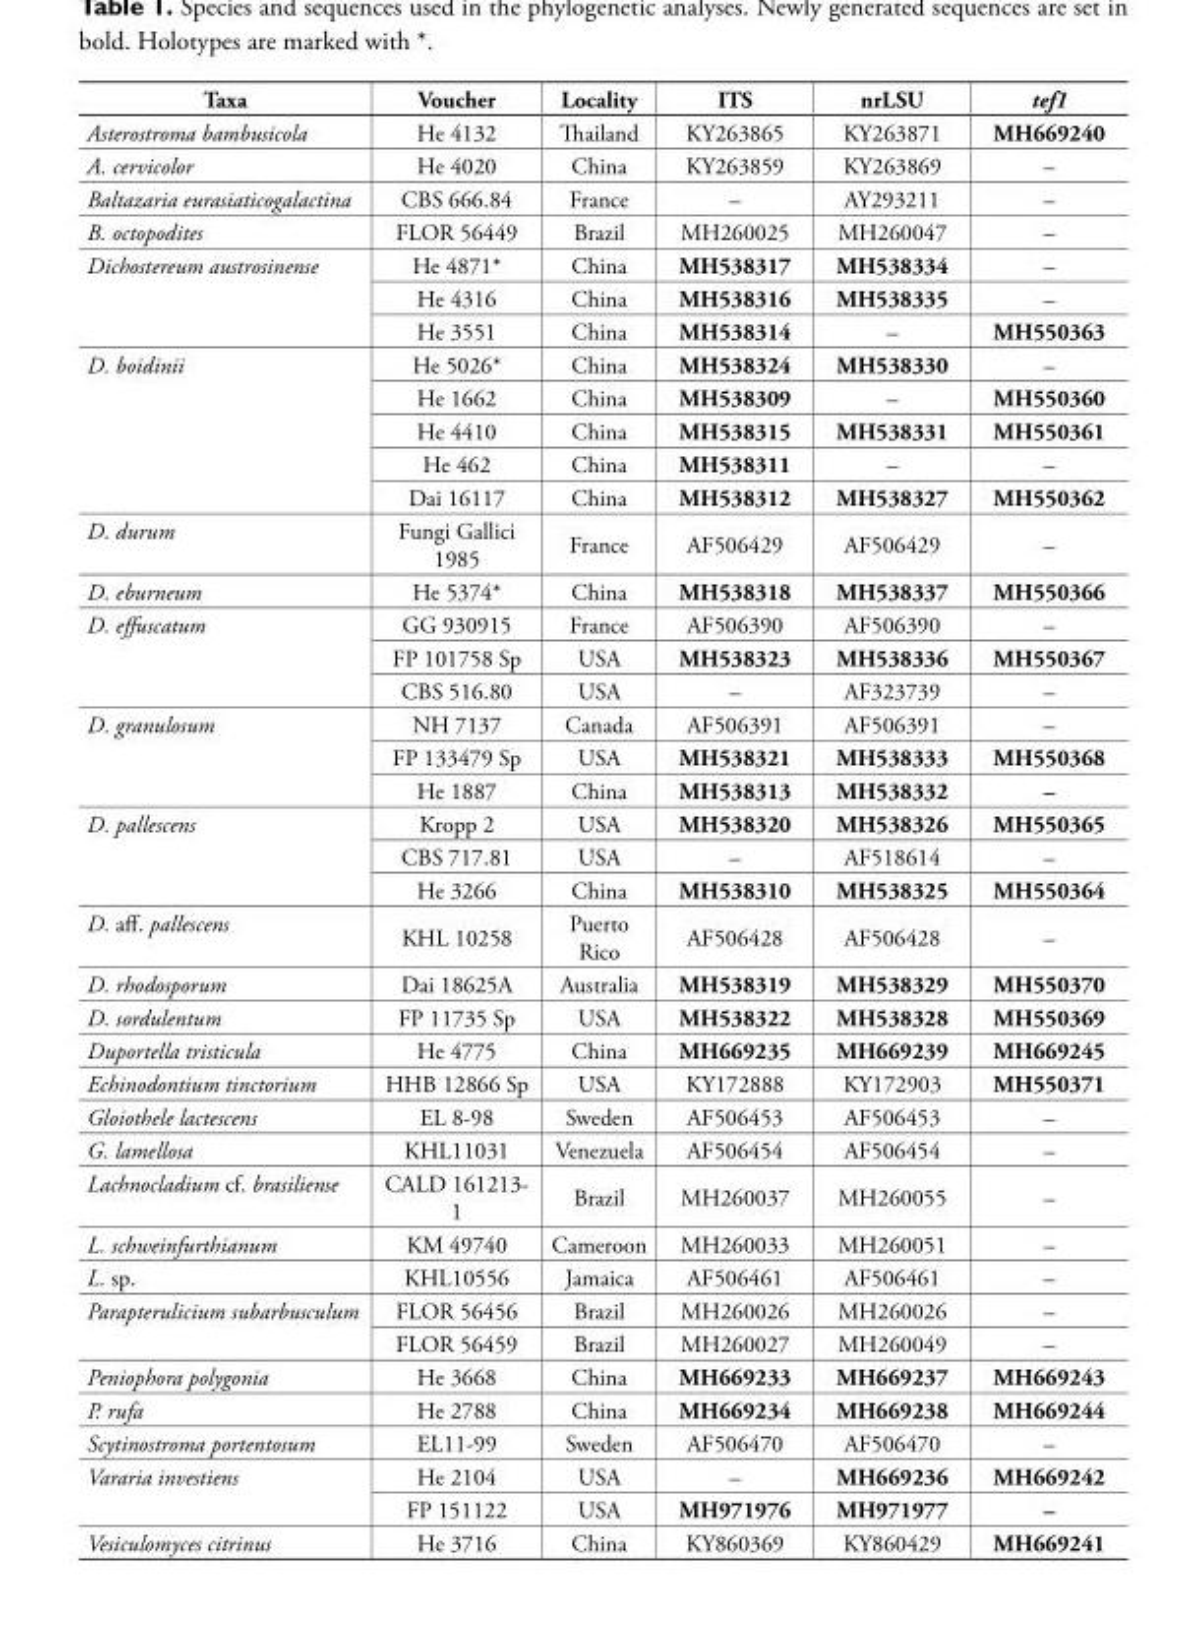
<table><thead><tr><td>Taxa</td><td>Voucher</td><td>Locality</td><td>ITS</td><td>nrLSU</td><td>tef1</td></tr></thead><tbody><tr><td>Asterostroma bambusicola</td><td>He 4132</td><td>Thailand</td><td>KY263865</td><td>KY263871</td><td>MH669240</td></tr><tr><td>A. cervicolor</td><td>He 4020</td><td>China</td><td>KY263859</td><td>KY263869</td><td>–</td></tr><tr><td>Baltazaria eurasiaticogalactina</td><td>CBS 666.84</td><td>France</td><td>–</td><td>AY293211</td><td>–</td></tr><tr><td>B. octopodites</td><td>FLOR 56449</td><td>Brazil</td><td>MH260025</td><td>MH260047</td><td>–</td></tr><tr><td rowspan="3">Dichostereum austrosinense</td><td>He 4871*</td><td>China</td><td>MH538317</td><td>MH538334</td><td>–</td></tr><tr><td>He 4316</td><td>China</td><td>MH538316</td><td>MH538335</td><td>–</td></tr><tr><td>He 3551</td><td>China</td><td>MH538314</td><td>–</td><td>MH550363</td></tr><tr><td rowspan="5">D. boidinii</td><td>He 5026*</td><td>China</td><td>MH538324</td><td>MH538330</td><td>–</td></tr><tr><td>He 1662</td><td>China</td><td>MH538309</td><td>–</td><td>MH550360</td></tr><tr><td>He 4410</td><td>China</td><td>MH538315</td><td>MH538331</td><td>MH550361</td></tr><tr><td>He 462</td><td>China</td><td>MH538311</td><td>–</td><td>–</td></tr><tr><td>Dai 16117</td><td>China</td><td>MH538312</td><td>MH538327</td><td>MH550362</td></tr><tr><td>D. durum</td><td>Fungi Gallici 1985</td><td>France</td><td>AF506429</td><td>AF506429</td><td>–</td></tr><tr><td>D. eburneum</td><td>He 5374*</td><td>China</td><td>MH538318</td><td>MH538337</td><td>MH550366</td></tr><tr><td rowspan="3">D. effuscatum</td><td>GG 930915</td><td>France</td><td>AF506390</td><td>AF506390</td><td>–</td></tr><tr><td>FP 101758 Sp</td><td>USA</td><td>MH538323</td><td>MH538336</td><td>MH550367</td></tr><tr><td>CBS 516.80</td><td>USA</td><td>–</td><td>AF323739</td><td>–</td></tr><tr><td rowspan="3">D. granulosum</td><td>NH 7137</td><td>Canada</td><td>AF506391</td><td>AF506391</td><td>–</td></tr><tr><td>FP 133479 Sp</td><td>USA</td><td>MH538321</td><td>MH538333</td><td>MH550368</td></tr><tr><td>He 1887</td><td>China</td><td>MH538313</td><td>MH538332</td><td>–</td></tr><tr><td rowspan="3">D. pallescens</td><td>Kropp 2</td><td>USA</td><td>MH538320</td><td>MH538326</td><td>MH550365</td></tr><tr><td>CBS 717.81</td><td>USA</td><td>–</td><td>AF518614</td><td>–</td></tr><tr><td>He 3266</td><td>China</td><td>MH538310</td><td>MH538325</td><td>MH550364</td></tr><tr><td>D. aff. pallescens</td><td>KHL 10258</td><td>Puerto Rico</td><td>AF506428</td><td>AF506428</td><td>–</td></tr><tr><td>D. rhodosporum</td><td>Dai 18625A</td><td>Australia</td><td>MH538319</td><td>MH538329</td><td>MH550370</td></tr><tr><td>D. sordulentum</td><td>FP 11735 Sp</td><td>USA</td><td>MH538322</td><td>MH538328</td><td>MH550369</td></tr><tr><td>Duportella tristicula</td><td>He 4775</td><td>China</td><td>MH669235</td><td>MH669239</td><td>MH669245</td></tr><tr><td>Echinodontium tinctorium</td><td>HHB 12866 Sp</td><td>USA</td><td>KY172888</td><td>KY172903</td><td>MH550371</td></tr><tr><td>Gloiothele lactescens</td><td>EL 8-98</td><td>Sweden</td><td>AF506453</td><td>AF506453</td><td>–</td></tr><tr><td>G. lamellosa</td><td>KHL11031</td><td>Venezuela</td><td>AF506454</td><td>AF506454</td><td>–</td></tr><tr><td>Lachnocladium cf. brasiliense</td><td>CALD 161213- 1</td><td>Brazil</td><td>MH260037</td><td>MH260055</td><td>–</td></tr><tr><td>L. schweinfurthianum</td><td>KM 49740</td><td>Cameroon</td><td>MH260033</td><td>MH260051</td><td>–</td></tr><tr><td>L. sp.</td><td>KHL10556</td><td>Jamaica</td><td>AF506461</td><td>AF506461</td><td>–</td></tr><tr><td rowspan="2">Parapterulicium subarbusculum</td><td>FLOR 56456</td><td>Brazil</td><td>MH260026</td><td>MH260026</td><td>–</td></tr><tr><td>FLOR 56459</td><td>Brazil</td><td>MH260027</td><td>MH260049</td><td>–</td></tr><tr><td>Peniophora polygonia</td><td>He 3668</td><td>China</td><td>MH669233</td><td>MH669237</td><td>MH669243</td></tr><tr><td>P. rufa</td><td>He 2788</td><td>China</td><td>MH669234</td><td>MH669238</td><td>MH669244</td></tr><tr><td>Scytinostroma portentosum</td><td>EL11-99</td><td>Sweden</td><td>AF506470</td><td>AF506470</td><td>–</td></tr><tr><td rowspan="2">Vararia investiens</td><td>He 2104</td><td>USA</td><td>–</td><td>MH669236</td><td>MH669242</td></tr><tr><td>FP 151122</td><td>USA</td><td>MH971976</td><td>MH971977</td><td>–</td></tr><tr><td>Vesiculomyces citrinus</td><td>He 3716</td><td>China</td><td>KY860369</td><td>KY860429</td><td>MH669241</td></tr></tbody></table>